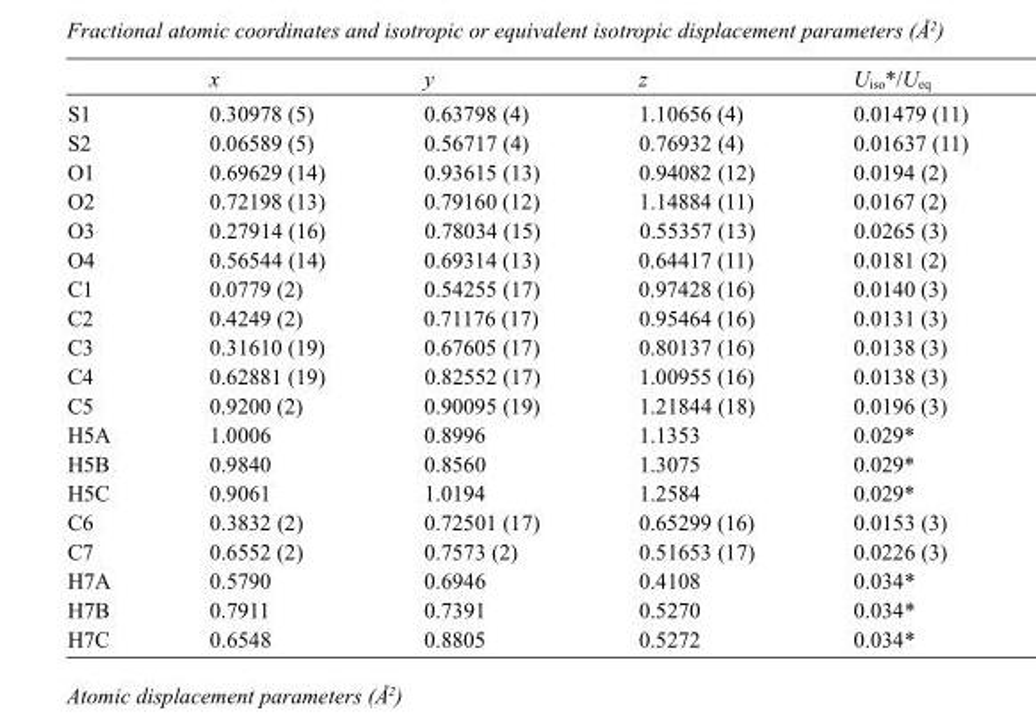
<table><thead><tr><td></td><td>x</td><td>y</td><td>z</td><td>U<sub>iso</sub>*/U<sub>eq</sub></td></tr></thead><tbody><tr><td>S1</td><td>0.30978 (5)</td><td>0.63798 (4)</td><td>1.10656 (4)</td><td>0.01479 (11)</td></tr><tr><td>S2</td><td>0.06589 (5)</td><td>0.56717 (4)</td><td>0.76932 (4)</td><td>0.01637 (11)</td></tr><tr><td>O1</td><td>0.69629 (14)</td><td>0.93615 (13)</td><td>0.94082 (12)</td><td>0.0194 (2)</td></tr><tr><td>O2</td><td>0.72198 (13)</td><td>0.79160 (12)</td><td>1.14884 (11)</td><td>0.0167 (2)</td></tr><tr><td>O3</td><td>0.27914 (16)</td><td>0.78034 (15)</td><td>0.55357 (13)</td><td>0.0265 (3)</td></tr><tr><td>O4</td><td>0.56544 (14)</td><td>0.69314 (13)</td><td>0.64417 (11)</td><td>0.0181 (2)</td></tr><tr><td>C1</td><td>0.0779 (2)</td><td>0.54255 (17)</td><td>0.97428 (16)</td><td>0.0140 (3)</td></tr><tr><td>C2</td><td>0.4249 (2)</td><td>0.71176 (17)</td><td>0.95464 (16)</td><td>0.0131 (3)</td></tr><tr><td>C3</td><td>0.31610 (19)</td><td>0.67605 (17)</td><td>0.80137 (16)</td><td>0.0138 (3)</td></tr><tr><td>C4</td><td>0.62881 (19)</td><td>0.82552 (17)</td><td>1.00955 (16)</td><td>0.0138 (3)</td></tr><tr><td>C5</td><td>0.9200 (2)</td><td>0.90095 (19)</td><td>1.21844 (18)</td><td>0.0196 (3)</td></tr><tr><td>H5A</td><td>1.0006</td><td>0.8996</td><td>1.1353</td><td>0.029*</td></tr><tr><td>H5B</td><td>0.9840</td><td>0.8560</td><td>1.3075</td><td>0.029*</td></tr><tr><td>H5C</td><td>0.9061</td><td>1.0194</td><td>1.2584</td><td>0.029*</td></tr><tr><td>C6</td><td>0.3832 (2)</td><td>0.72501 (17)</td><td>0.65299 (16)</td><td>0.0153 (3)</td></tr><tr><td>C7</td><td>0.6552 (2)</td><td>0.7573 (2)</td><td>0.51653 (17)</td><td>0.0226 (3)</td></tr><tr><td>H7A</td><td>0.5790</td><td>0.6946</td><td>0.4108</td><td>0.034*</td></tr><tr><td>H7B</td><td>0.7911</td><td>0.7391</td><td>0.5270</td><td>0.034*</td></tr><tr><td>H7C</td><td>0.6548</td><td>0.8805</td><td>0.5272</td><td>0.034*</td></tr></tbody></table>